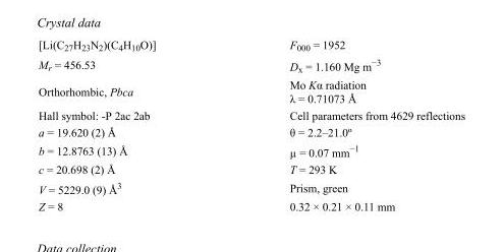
<table><tbody><tr><td>[Li(C<sub>27</sub>H<sub>23</sub>N<sub>2</sub>)(C<sub>4</sub>H<sub>10</sub>O)]</td><td>F000 = 1952</td></tr><tr><td>M<sub>r</sub> = 456.53</td><td>D<sub>x</sub> = 1.160 Mg m<sup>−3</sup></td></tr><tr><td>Orthorhombic, Pbca</td><td>Mo Kα radiation λ = 0.71073 Å</td></tr><tr><td>Hall symbol: -P 2ac 2ab</td><td>Cell parameters from 4629 reflections</td></tr><tr><td>a = 19.620 (2) Å</td><td>θ = 2.2–21.0º</td></tr><tr><td>b = 12.8763 (13) Å</td><td>µ = 0.07 mm<sup>−1</sup></td></tr><tr><td>c = 20.698 (2) Å</td><td>T = 293 K</td></tr><tr><td>V = 5229.0 (9) Å<sup>3</sup></td><td>Prism, green</td></tr><tr><td>Z = 8</td><td>0.32 × 0.21 × 0.11 mm</td></tr></tbody></table>